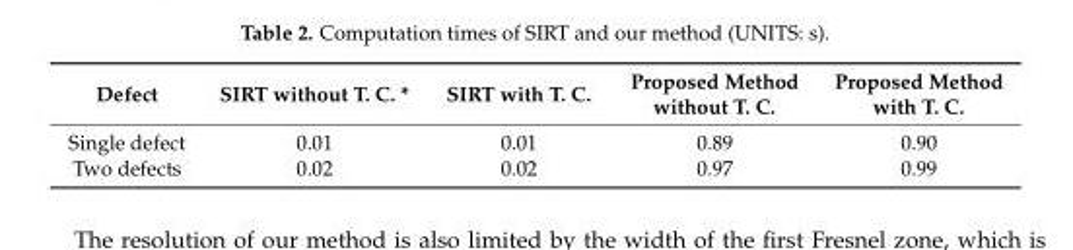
<table><thead><tr><td>Defect</td><td>SIRT without T. C. *</td><td>SIRT with T. C.</td><td>Proposed Method without T. C.</td><td>Proposed Method with T. C.</td></tr></thead><tbody><tr><td>Single defect</td><td>0.01</td><td>0.01</td><td>0.89</td><td>0.90</td></tr><tr><td>Two defects</td><td>0.02</td><td>0.02</td><td>0.97</td><td>0.99</td></tr></tbody></table>